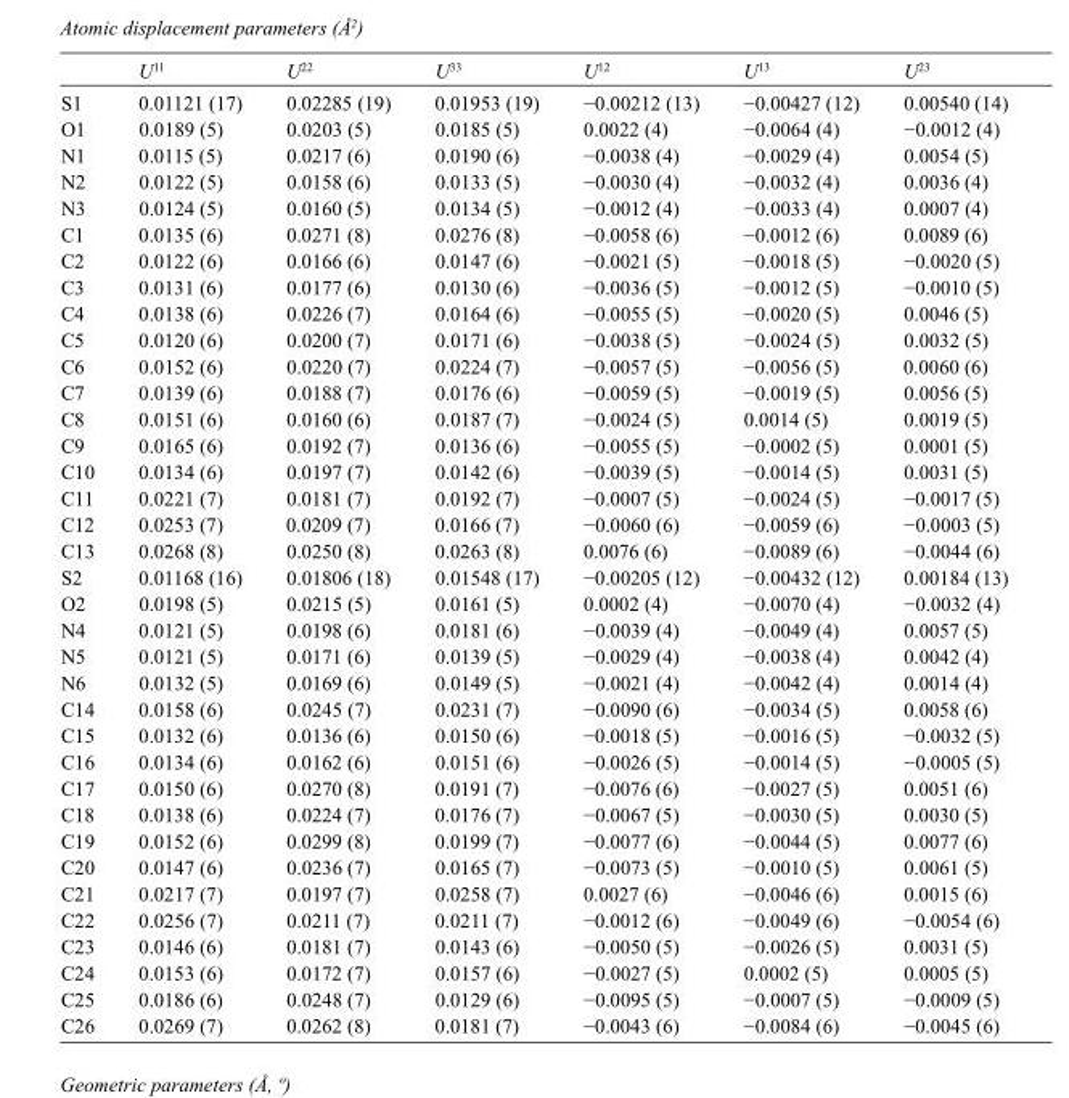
<table><thead><tr><td></td><td>U<sup>11</sup></td><td>U<sup>22</sup></td><td>U<sup>33</sup></td><td>U<sup>12</sup></td><td>U<sup>13</sup></td><td>U<sup>23</sup></td></tr></thead><tbody><tr><td>S1</td><td>0.01121 (17)</td><td>0.02285 (19)</td><td>0.01953 (19)</td><td>−0.00212 (13)</td><td>−0.00427 (12)</td><td>0.00540 (14)</td></tr><tr><td>O1</td><td>0.0189 (5)</td><td>0.0203 (5)</td><td>0.0185 (5)</td><td>0.0022 (4)</td><td>−0.0064 (4)</td><td>−0.0012 (4)</td></tr><tr><td>N1</td><td>0.0115 (5)</td><td>0.0217 (6)</td><td>0.0190 (6)</td><td>−0.0038 (4)</td><td>−0.0029 (4)</td><td>0.0054 (5)</td></tr><tr><td>N2</td><td>0.0122 (5)</td><td>0.0158 (6)</td><td>0.0133 (5)</td><td>−0.0030 (4)</td><td>−0.0032 (4)</td><td>0.0036 (4)</td></tr><tr><td>N3</td><td>0.0124 (5)</td><td>0.0160 (5)</td><td>0.0134 (5)</td><td>−0.0012 (4)</td><td>−0.0033 (4)</td><td>0.0007 (4)</td></tr><tr><td>C1</td><td>0.0135 (6)</td><td>0.0271 (8)</td><td>0.0276 (8)</td><td>−0.0058 (6)</td><td>−0.0012 (6)</td><td>0.0089 (6)</td></tr><tr><td>C2</td><td>0.0122 (6)</td><td>0.0166 (6)</td><td>0.0147 (6)</td><td>−0.0021 (5)</td><td>−0.0018 (5)</td><td>−0.0020 (5)</td></tr><tr><td>C3</td><td>0.0131 (6)</td><td>0.0177 (6)</td><td>0.0130 (6)</td><td>−0.0036 (5)</td><td>−0.0012 (5)</td><td>−0.0010 (5)</td></tr><tr><td>C4</td><td>0.0138 (6)</td><td>0.0226 (7)</td><td>0.0164 (6)</td><td>−0.0055 (5)</td><td>−0.0020 (5)</td><td>0.0046 (5)</td></tr><tr><td>C5</td><td>0.0120 (6)</td><td>0.0200 (7)</td><td>0.0171 (6)</td><td>−0.0038 (5)</td><td>−0.0024 (5)</td><td>0.0032 (5)</td></tr><tr><td>C6</td><td>0.0152 (6)</td><td>0.0220 (7)</td><td>0.0224 (7)</td><td>−0.0057 (5)</td><td>−0.0056 (5)</td><td>0.0060 (6)</td></tr><tr><td>C7</td><td>0.0139 (6)</td><td>0.0188 (7)</td><td>0.0176 (6)</td><td>−0.0059 (5)</td><td>−0.0019 (5)</td><td>0.0056 (5)</td></tr><tr><td>C8</td><td>0.0151 (6)</td><td>0.0160 (6)</td><td>0.0187 (7)</td><td>−0.0024 (5)</td><td>0.0014 (5)</td><td>0.0019 (5)</td></tr><tr><td>C9</td><td>0.0165 (6)</td><td>0.0192 (7)</td><td>0.0136 (6)</td><td>−0.0055 (5)</td><td>−0.0002 (5)</td><td>0.0001 (5)</td></tr><tr><td>C10</td><td>0.0134 (6)</td><td>0.0197 (7)</td><td>0.0142 (6)</td><td>−0.0039 (5)</td><td>−0.0014 (5)</td><td>0.0031 (5)</td></tr><tr><td>C11</td><td>0.0221 (7)</td><td>0.0181 (7)</td><td>0.0192 (7)</td><td>−0.0007 (5)</td><td>−0.0024 (5)</td><td>−0.0017 (5)</td></tr><tr><td>C12</td><td>0.0253 (7)</td><td>0.0209 (7)</td><td>0.0166 (7)</td><td>−0.0060 (6)</td><td>−0.0059 (6)</td><td>−0.0003 (5)</td></tr><tr><td>C13</td><td>0.0268 (8)</td><td>0.0250 (8)</td><td>0.0263 (8)</td><td>0.0076 (6)</td><td>−0.0089 (6)</td><td>−0.0044 (6)</td></tr><tr><td>S2</td><td>0.01168 (16)</td><td>0.01806 (18)</td><td>0.01548 (17)</td><td>−0.00205 (12)</td><td>−0.00432 (12)</td><td>0.00184 (13)</td></tr><tr><td>O2</td><td>0.0198 (5)</td><td>0.0215 (5)</td><td>0.0161 (5)</td><td>0.0002 (4)</td><td>−0.0070 (4)</td><td>−0.0032 (4)</td></tr><tr><td>N4</td><td>0.0121 (5)</td><td>0.0198 (6)</td><td>0.0181 (6)</td><td>−0.0039 (4)</td><td>−0.0049 (4)</td><td>0.0057 (5)</td></tr><tr><td>N5</td><td>0.0121 (5)</td><td>0.0171 (6)</td><td>0.0139 (5)</td><td>−0.0029 (4)</td><td>−0.0038 (4)</td><td>0.0042 (4)</td></tr><tr><td>N6</td><td>0.0132 (5)</td><td>0.0169 (6)</td><td>0.0149 (5)</td><td>−0.0021 (4)</td><td>−0.0042 (4)</td><td>0.0014 (4)</td></tr><tr><td>C14</td><td>0.0158 (6)</td><td>0.0245 (7)</td><td>0.0231 (7)</td><td>−0.0090 (6)</td><td>−0.0034 (5)</td><td>0.0058 (6)</td></tr><tr><td>C15</td><td>0.0132 (6)</td><td>0.0136 (6)</td><td>0.0150 (6)</td><td>−0.0018 (5)</td><td>−0.0016 (5)</td><td>−0.0032 (5)</td></tr><tr><td>C16</td><td>0.0134 (6)</td><td>0.0162 (6)</td><td>0.0151 (6)</td><td>−0.0026 (5)</td><td>−0.0014 (5)</td><td>−0.0005 (5)</td></tr><tr><td>C17</td><td>0.0150 (6)</td><td>0.0270 (8)</td><td>0.0191 (7)</td><td>−0.0076 (6)</td><td>−0.0027 (5)</td><td>0.0051 (6)</td></tr><tr><td>C18</td><td>0.0138 (6)</td><td>0.0224 (7)</td><td>0.0176 (7)</td><td>−0.0067 (5)</td><td>−0.0030 (5)</td><td>0.0030 (5)</td></tr><tr><td>C19</td><td>0.0152 (6)</td><td>0.0299 (8)</td><td>0.0199 (7)</td><td>−0.0077 (6)</td><td>−0.0044 (5)</td><td>0.0077 (6)</td></tr><tr><td>C20</td><td>0.0147 (6)</td><td>0.0236 (7)</td><td>0.0165 (7)</td><td>−0.0073 (5)</td><td>−0.0010 (5)</td><td>0.0061 (5)</td></tr><tr><td>C21</td><td>0.0217 (7)</td><td>0.0197 (7)</td><td>0.0258 (7)</td><td>0.0027 (6)</td><td>−0.0046 (6)</td><td>0.0015 (6)</td></tr><tr><td>C22</td><td>0.0256 (7)</td><td>0.0211 (7)</td><td>0.0211 (7)</td><td>−0.0012 (6)</td><td>−0.0049 (6)</td><td>−0.0054 (6)</td></tr><tr><td>C23</td><td>0.0146 (6)</td><td>0.0181 (7)</td><td>0.0143 (6)</td><td>−0.0050 (5)</td><td>−0.0026 (5)</td><td>0.0031 (5)</td></tr><tr><td>C24</td><td>0.0153 (6)</td><td>0.0172 (7)</td><td>0.0157 (6)</td><td>−0.0027 (5)</td><td>0.0002 (5)</td><td>0.0005 (5)</td></tr><tr><td>C25</td><td>0.0186 (6)</td><td>0.0248 (7)</td><td>0.0129 (6)</td><td>−0.0095 (5)</td><td>−0.0007 (5)</td><td>−0.0009 (5)</td></tr><tr><td>C26</td><td>0.0269 (7)</td><td>0.0262 (8)</td><td>0.0181 (7)</td><td>−0.0043 (6)</td><td>−0.0084 (6)</td><td>−0.0045 (6)</td></tr></tbody></table>